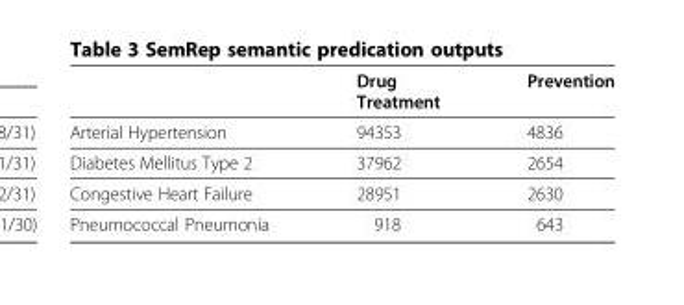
<table><thead><tr><td></td><td>Drug Treatment</td><td>Prevention</td></tr></thead><tbody><tr><td>Arterial Hypertension</td><td>94353</td><td>4836</td></tr><tr><td>Diabetes Mellitus Type 2</td><td>37962</td><td>2654</td></tr><tr><td>Congestive Heart Failure</td><td>28951</td><td>2630</td></tr><tr><td>Pneumococcal Pneumonia</td><td>918</td><td>643</td></tr></tbody></table>